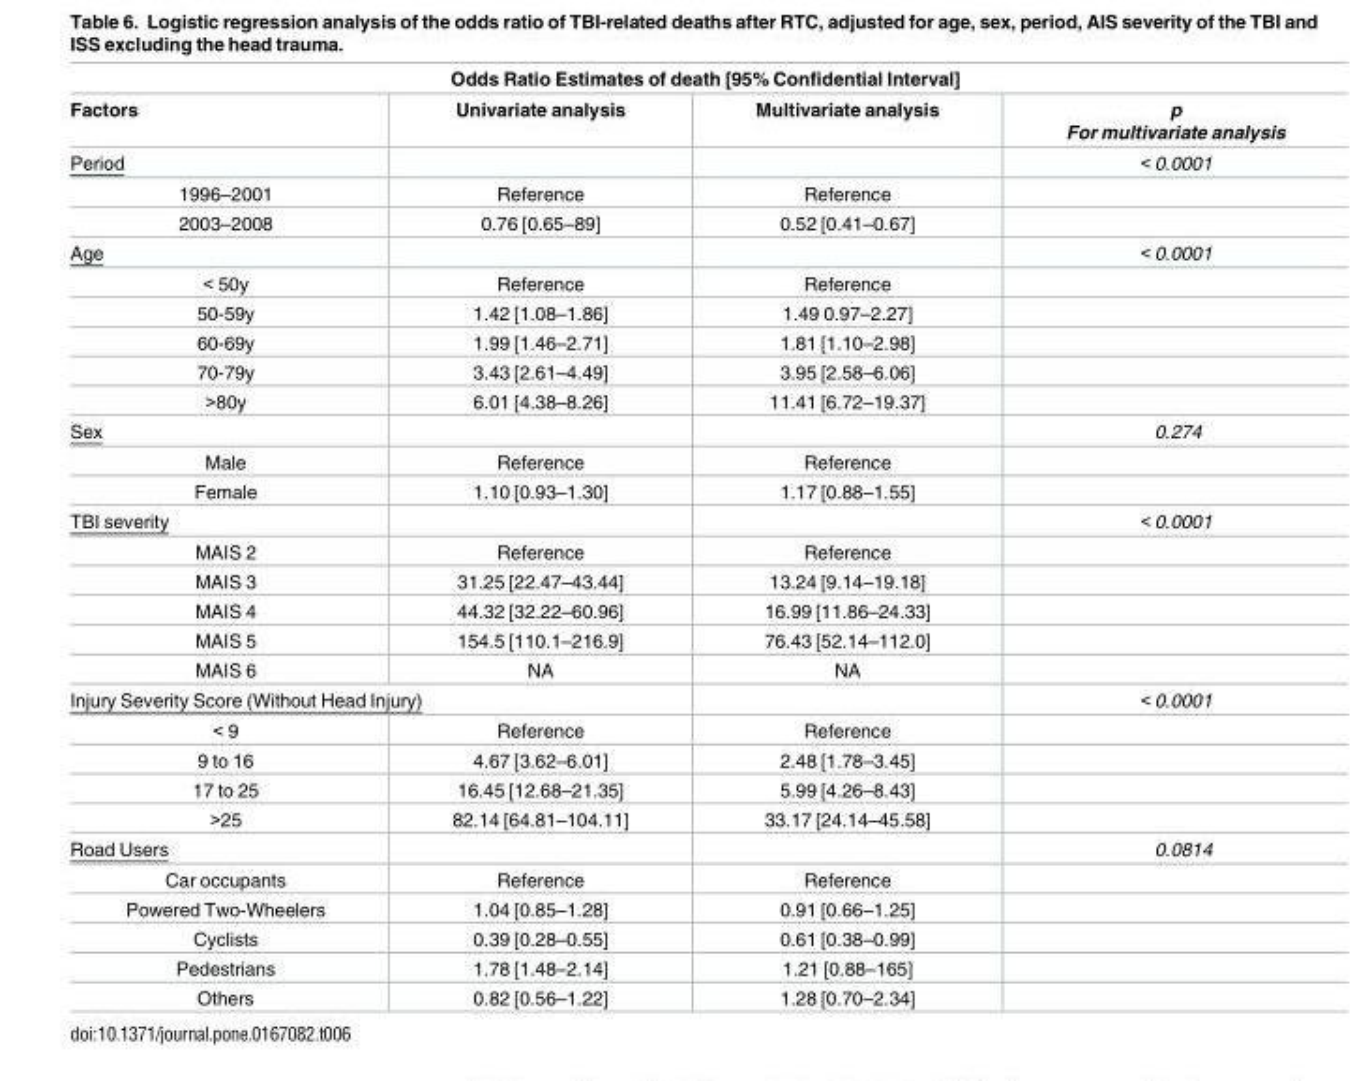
<table><thead><tr><td colspan="4">Odds Ratio Estimates of death [95% Confidential Interval]</td></tr><tr><td>Factors</td><td>Univariate analysis</td><td>Multivariate analysis</td><td>p For multivariate analysis</td></tr></thead><tbody><tr><td>Period</td><td></td><td></td><td>&lt; 0.0001</td></tr><tr><td>1996–2001</td><td>Reference</td><td>Reference</td><td></td></tr><tr><td>2003–2008</td><td>0.76 [0.65–89]</td><td>0.52 [0.41–0.67]</td><td></td></tr><tr><td>Age</td><td></td><td></td><td>&lt; 0.0001</td></tr><tr><td>&lt; 50y</td><td>Reference</td><td>Reference</td><td></td></tr><tr><td>50-59y</td><td>1.42 [1.08–1.86]</td><td>1.49 0.97–2.27]</td><td></td></tr><tr><td>60-69y</td><td>1.99 [1.46–2.71]</td><td>1.81 [1.10–2.98]</td><td></td></tr><tr><td>70-79y</td><td>3.43 [2.61–4.49]</td><td>3.95 [2.58–6.06]</td><td></td></tr><tr><td>&gt;80y</td><td>6.01 [4.38–8.26]</td><td>11.41 [6.72–19.37]</td><td></td></tr><tr><td>Sex</td><td></td><td></td><td>0.274</td></tr><tr><td>Male</td><td>Reference</td><td>Reference</td><td></td></tr><tr><td>Female</td><td>1.10 [0.93–1.30]</td><td>1.17 [0.88–1.55]</td><td></td></tr><tr><td>TBI severity</td><td></td><td></td><td>&lt; 0.0001</td></tr><tr><td>MAIS 2</td><td>Reference</td><td>Reference</td><td></td></tr><tr><td>MAIS 3</td><td>31.25 [22.47–43.44]</td><td>13.24 [9.14–19.18]</td><td></td></tr><tr><td>MAIS 4</td><td>44.32 [32.22–60.96]</td><td>16.99 [11.86–24.33]</td><td></td></tr><tr><td>MAIS 5</td><td>154.5 [110.1–216.9]</td><td>76.43 [52.14–112.0]</td><td></td></tr><tr><td>MAIS 6</td><td>NA</td><td>NA</td><td></td></tr><tr><td colspan="2">Injury Severity Score (Without Head Injury)</td><td></td><td>&lt; 0.0001</td></tr><tr><td>&lt; 9</td><td>Reference</td><td>Reference</td><td></td></tr><tr><td>9 to 16</td><td>4.67 [3.62–6.01]</td><td>2.48 [1.78–3.45]</td><td></td></tr><tr><td>17 to 25</td><td>16.45 [12.68–21.35]</td><td>5.99 [4.26–8.43]</td><td></td></tr><tr><td>&gt;25</td><td>82.14 [64.81–104.11]</td><td>33.17 [24.14–45.58]</td><td></td></tr><tr><td>Road Users</td><td></td><td></td><td>0.0814</td></tr><tr><td>Car occupants</td><td>Reference</td><td>Reference</td><td></td></tr><tr><td>Powered Two-Wheelers</td><td>1.04 [0.85–1.28]</td><td>0.91 [0.66–1.25]</td><td></td></tr><tr><td>Cyclists</td><td>0.39 [0.28–0.55]</td><td>0.61 [0.38–0.99]</td><td></td></tr><tr><td>Pedestrians</td><td>1.78 [1.48–2.14]</td><td>1.21 [0.88–165]</td><td></td></tr><tr><td>Others</td><td>0.82 [0.56–1.22]</td><td>1.28 [0.70–2.34]</td><td></td></tr></tbody></table>